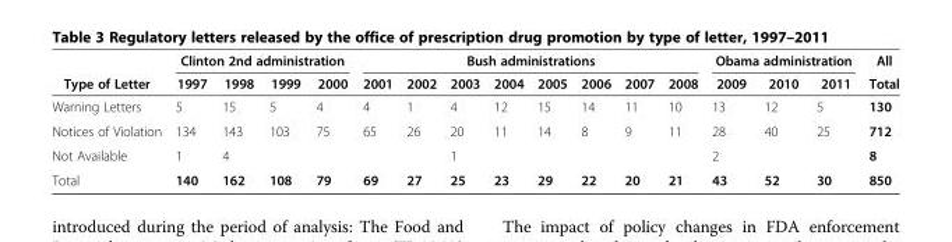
<table><thead><tr><td rowspan="2">Type of Letter</td><td colspan="4">Clinton 2nd administration</td><td colspan="8">Bush administrations</td><td colspan="3">Obama administration</td><td rowspan="2">All Total</td></tr><tr><td>1997</td><td>1998</td><td>1999</td><td>2000</td><td>2001</td><td>2002</td><td>2003</td><td>2004</td><td>2005</td><td>2006</td><td>2007</td><td>2008</td><td>2009</td><td>2010</td><td>2011</td></tr></thead><tbody><tr><td>Warning Letters</td><td>5</td><td>15</td><td>5</td><td>4</td><td>4</td><td>1</td><td>4</td><td>12</td><td>15</td><td>14</td><td>11</td><td>10</td><td>13</td><td>12</td><td>5</td><td>130</td></tr><tr><td>Notices of Violation</td><td>134</td><td>143</td><td>103</td><td>75</td><td>65</td><td>26</td><td>20</td><td>11</td><td>14</td><td>8</td><td>9</td><td>11</td><td>28</td><td>40</td><td>25</td><td>712</td></tr><tr><td>Not Available</td><td>1</td><td>4</td><td></td><td></td><td></td><td></td><td>1</td><td></td><td></td><td></td><td></td><td></td><td>2</td><td></td><td></td><td>8</td></tr><tr><td>Total</td><td>140</td><td>162</td><td>108</td><td>79</td><td>69</td><td>27</td><td>25</td><td>23</td><td>29</td><td>22</td><td>20</td><td>21</td><td>43</td><td>52</td><td>30</td><td>850</td></tr></tbody></table>